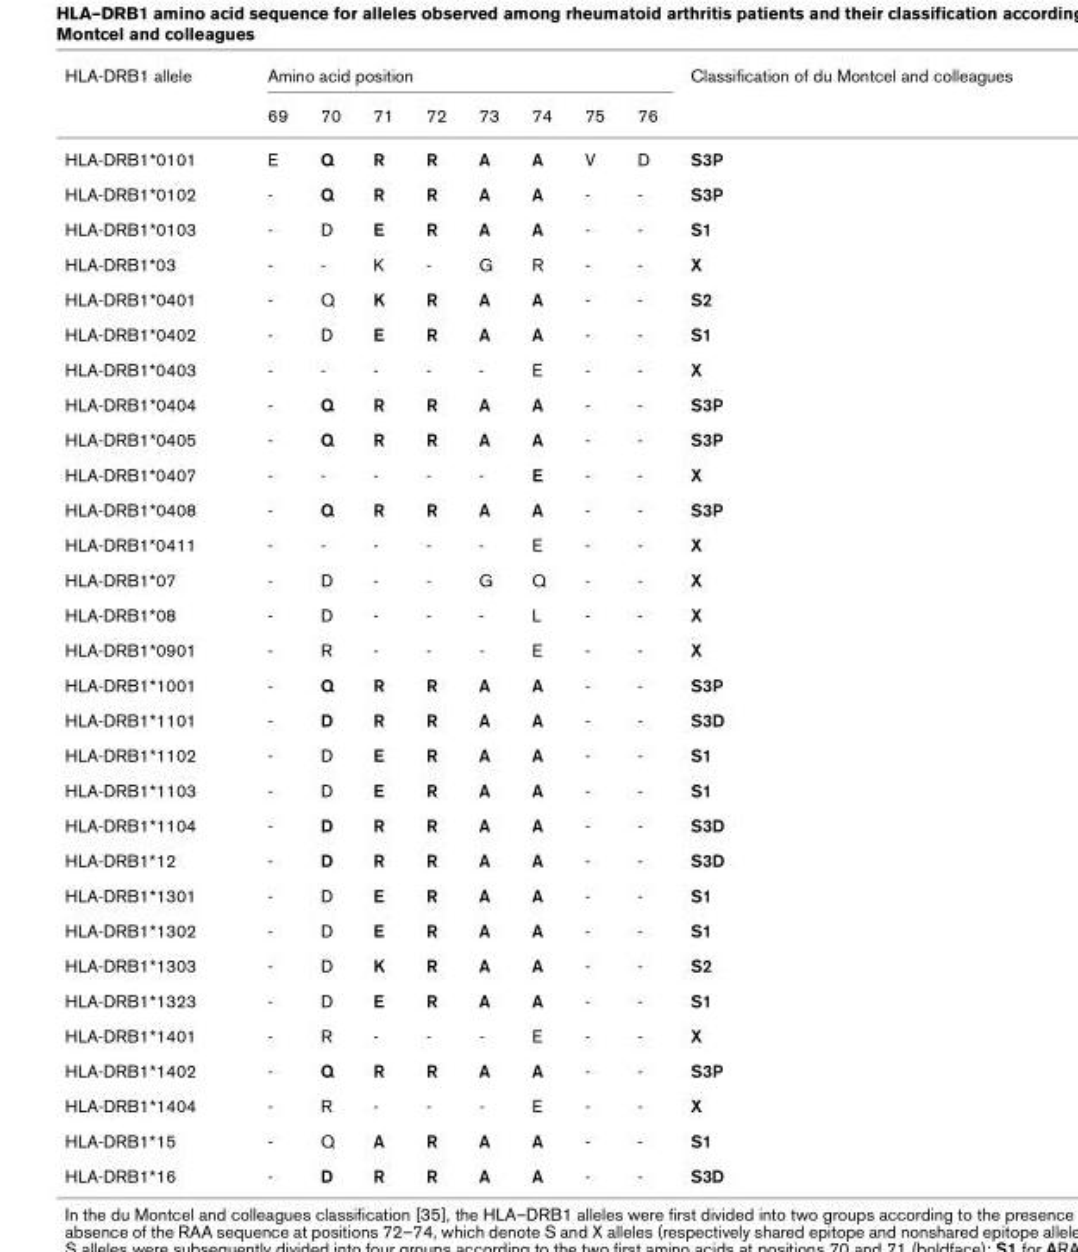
<table><thead><tr><td rowspan="2">HLA-DRB1 allele</td><td colspan="8">Amino acid position</td><td rowspan="2">Classification of du Montcel and colleagues</td></tr><tr><td>69</td><td>70</td><td>71</td><td>72</td><td>73</td><td>74</td><td>75</td><td>76</td></tr></thead><tbody><tr><td>HLA-DRB1*0101</td><td>E</td><td>Q</td><td>R</td><td>R</td><td>A</td><td>A</td><td>V</td><td>D</td><td>S3P</td></tr><tr><td>HLA-DRB1*0102</td><td>-</td><td>Q</td><td>R</td><td>R</td><td>A</td><td>A</td><td>-</td><td>-</td><td>S3P</td></tr><tr><td>HLA-DRB1*0103</td><td>-</td><td>D</td><td>E</td><td>R</td><td>A</td><td>A</td><td>-</td><td>-</td><td>S1</td></tr><tr><td>HLA-DRB1*03</td><td>-</td><td>-</td><td>K</td><td>-</td><td>G</td><td>R</td><td>-</td><td>-</td><td>X</td></tr><tr><td>HLA-DRB1*0401</td><td>-</td><td>Q</td><td>K</td><td>R</td><td>A</td><td>A</td><td>-</td><td>-</td><td>S2</td></tr><tr><td>HLA-DRB1*0402</td><td>-</td><td>D</td><td>E</td><td>R</td><td>A</td><td>A</td><td>-</td><td>-</td><td>S1</td></tr><tr><td>HLA-DRB1*0403</td><td>-</td><td>-</td><td>-</td><td>-</td><td>-</td><td>E</td><td>-</td><td>-</td><td>X</td></tr><tr><td>HLA-DRB1*0404</td><td>-</td><td>Q</td><td>R</td><td>R</td><td>A</td><td>A</td><td>-</td><td>-</td><td>S3P</td></tr><tr><td>HLA-DRB1*0405</td><td>-</td><td>Q</td><td>R</td><td>R</td><td>A</td><td>A</td><td>-</td><td>-</td><td>S3P</td></tr><tr><td>HLA-DRB1*0407</td><td>-</td><td>-</td><td>-</td><td>-</td><td>-</td><td>E</td><td>-</td><td>-</td><td>X</td></tr><tr><td>HLA-DRB1*0408</td><td>-</td><td>Q</td><td>R</td><td>R</td><td>A</td><td>A</td><td>-</td><td>-</td><td>S3P</td></tr><tr><td>HLA-DRB1*0411</td><td>-</td><td>-</td><td>-</td><td>-</td><td>-</td><td>E</td><td>-</td><td>-</td><td>X</td></tr><tr><td>HLA-DRB1*07</td><td>-</td><td>D</td><td>-</td><td>-</td><td>G</td><td>Q</td><td>-</td><td>-</td><td>X</td></tr><tr><td>HLA-DRB1*08</td><td>-</td><td>D</td><td>-</td><td>-</td><td>-</td><td>L</td><td>-</td><td>-</td><td>X</td></tr><tr><td>HLA-DRB1*0901</td><td>-</td><td>R</td><td>-</td><td>-</td><td>-</td><td>E</td><td>-</td><td>-</td><td>X</td></tr><tr><td>HLA-DRB1*1001</td><td>-</td><td>Q</td><td>R</td><td>R</td><td>A</td><td>A</td><td>-</td><td>-</td><td>S3P</td></tr><tr><td>HLA-DRB1*1101</td><td>-</td><td>D</td><td>R</td><td>R</td><td>A</td><td>A</td><td>-</td><td>-</td><td>S3D</td></tr><tr><td>HLA-DRB1*1102</td><td>-</td><td>D</td><td>E</td><td>R</td><td>A</td><td>A</td><td>-</td><td>-</td><td>S1</td></tr><tr><td>HLA-DRB1*1103</td><td>-</td><td>D</td><td>E</td><td>R</td><td>A</td><td>A</td><td>-</td><td>-</td><td>S1</td></tr><tr><td>HLA-DRB1*1104</td><td>-</td><td>D</td><td>R</td><td>R</td><td>A</td><td>A</td><td>-</td><td>-</td><td>S3D</td></tr><tr><td>HLA-DRB1*12</td><td>-</td><td>D</td><td>R</td><td>R</td><td>A</td><td>A</td><td>-</td><td>-</td><td>S3D</td></tr><tr><td>HLA-DRB1*1301</td><td>-</td><td>D</td><td>E</td><td>R</td><td>A</td><td>A</td><td>-</td><td>-</td><td>S1</td></tr><tr><td>HLA-DRB1*1302</td><td>-</td><td>D</td><td>E</td><td>R</td><td>A</td><td>A</td><td>-</td><td>-</td><td>S1</td></tr><tr><td>HLA-DRB1*1303</td><td>-</td><td>D</td><td>K</td><td>R</td><td>A</td><td>A</td><td>-</td><td>-</td><td>S2</td></tr><tr><td>HLA-DRB1*1323</td><td>-</td><td>D</td><td>E</td><td>R</td><td>A</td><td>A</td><td>-</td><td>-</td><td>S1</td></tr><tr><td>HLA-DRB1*1401</td><td>-</td><td>R</td><td>-</td><td>-</td><td>-</td><td>E</td><td>-</td><td>-</td><td>X</td></tr><tr><td>HLA-DRB1*1402</td><td>-</td><td>Q</td><td>R</td><td>R</td><td>A</td><td>A</td><td>-</td><td>-</td><td>S3P</td></tr><tr><td>HLA-DRB1*1404</td><td>-</td><td>R</td><td>-</td><td>-</td><td>-</td><td>E</td><td>-</td><td>-</td><td>X</td></tr><tr><td>HLA-DRB1*15</td><td>-</td><td>Q</td><td>A</td><td>R</td><td>A</td><td>A</td><td>-</td><td>-</td><td>S1</td></tr><tr><td>HLA-DRB1*16</td><td>-</td><td>D</td><td>R</td><td>R</td><td>A</td><td>A</td><td>-</td><td>-</td><td>S3D</td></tr></tbody></table>